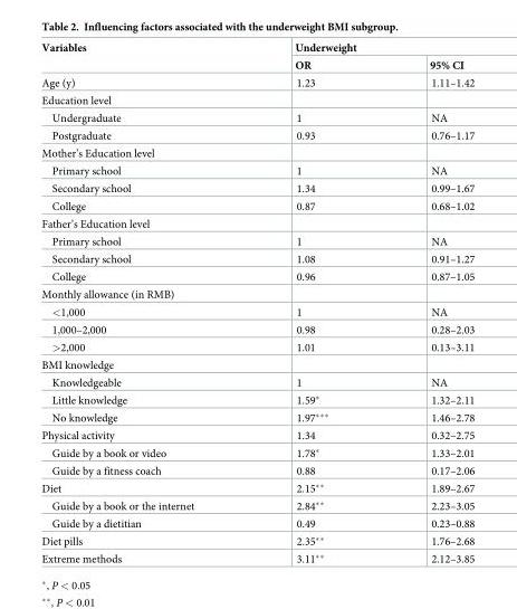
<table><thead><tr><td rowspan="2">Variables</td><td colspan="2">Underweight</td></tr><tr><td>OR</td><td>95% CI</td></tr></thead><tbody><tr><td>Age (y)</td><td>1.23</td><td>1.11–1.42</td></tr><tr><td colspan="3">Education level</td></tr><tr><td>Undergraduate</td><td>1</td><td>NA</td></tr><tr><td>Postgraduate</td><td>0.93</td><td>0.76–1.17</td></tr><tr><td colspan="3">Mother’s Education level</td></tr><tr><td>Primary school</td><td>1</td><td>NA</td></tr><tr><td>Secondary school</td><td>1.34</td><td>0.99–1.67</td></tr><tr><td>College</td><td>0.87</td><td>0.68–1.02</td></tr><tr><td colspan="3">Father’s Education level</td></tr><tr><td>Primary school</td><td>1</td><td>NA</td></tr><tr><td>Secondary school</td><td>1.08</td><td>0.91–1.27</td></tr><tr><td>College</td><td>0.96</td><td>0.87–1.05</td></tr><tr><td colspan="3">Monthly allowance (in RMB)</td></tr><tr><td>&lt;1,000</td><td>1</td><td>NA</td></tr><tr><td>1,000–2,000</td><td>0.98</td><td>0.28–2.03</td></tr><tr><td>&gt;2,000</td><td>1.01</td><td>0.13–3.11</td></tr><tr><td colspan="3">BMI knowledge</td></tr><tr><td>Knowledgeable</td><td>1</td><td>NA</td></tr><tr><td>Little knowledge</td><td>1.59*</td><td>1.32–2.11</td></tr><tr><td>No knowledge</td><td>1.97***</td><td>1.46–2.78</td></tr><tr><td>Physical activity</td><td>1.34</td><td>0.32–2.75</td></tr><tr><td>Guide by a book or video</td><td>1.78*</td><td>1.33–2.01</td></tr><tr><td>Guide by a fitness coach</td><td>0.88</td><td>0.17–2.06</td></tr><tr><td>Diet</td><td>2.15**</td><td>1.89–2.67</td></tr><tr><td>Guide by a book or the internet</td><td>2.84**</td><td>2.23–3.05</td></tr><tr><td>Guide by a dietitian</td><td>0.49</td><td>0.23–0.88</td></tr><tr><td>Diet pills</td><td>2.35**</td><td>1.76–2.68</td></tr><tr><td>Extreme methods</td><td>3.11**</td><td>2.12–3.85</td></tr></tbody></table>